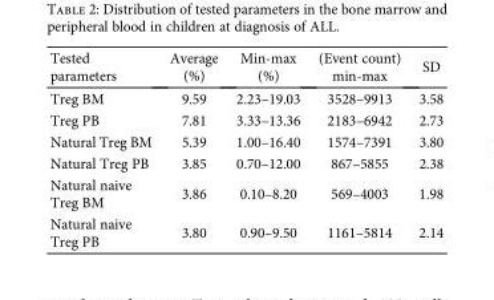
<table><thead><tr><td>Tested parameters</td><td>Average (%)</td><td>Min-max (%)</td><td>(Event count) min-max</td><td>SD</td></tr></thead><tbody><tr><td>Treg BM</td><td>9.59</td><td>2.23–19.03</td><td>3528–9913</td><td>3.58</td></tr><tr><td>Treg PB</td><td>7.81</td><td>3.33–13.36</td><td>2183–6942</td><td>2.73</td></tr><tr><td>Natural Treg BM</td><td>5.39</td><td>1.00–16.40</td><td>1574–7391</td><td>3.80</td></tr><tr><td>Natural Treg PB</td><td>3.85</td><td>0.70–12.00</td><td>867–5855</td><td>2.38</td></tr><tr><td>Natural naive Treg BM</td><td>3.86</td><td>0.10–8.20</td><td>569–4003</td><td>1.98</td></tr><tr><td>Natural naive Treg PB</td><td>3.80</td><td>0.90–9.50</td><td>1161–5814</td><td>2.14</td></tr></tbody></table>